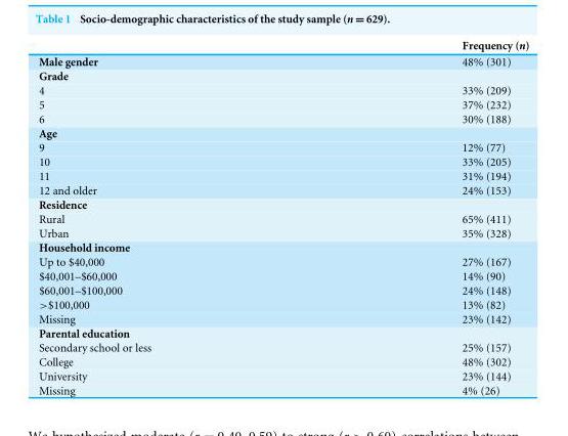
<table><thead><tr><td></td><td>Frequency (n)</td></tr></thead><tbody><tr><td>Male gender</td><td>48% (301)</td></tr><tr><td colspan="2">Grade</td></tr><tr><td>4</td><td>33% (209)</td></tr><tr><td>5</td><td>37% (232)</td></tr><tr><td>6</td><td>30% (188)</td></tr><tr><td colspan="2">Age</td></tr><tr><td>9</td><td>12% (77)</td></tr><tr><td>10</td><td>33% (205)</td></tr><tr><td>11</td><td>31% (194)</td></tr><tr><td>12 and older</td><td>24% (153)</td></tr><tr><td colspan="2">Residence</td></tr><tr><td>Rural</td><td>65% (411)</td></tr><tr><td>Urban</td><td>35% (328)</td></tr><tr><td colspan="2">Household income</td></tr><tr><td>Up to $40,000</td><td>27% (167)</td></tr><tr><td>$40,001–$60,000</td><td>14% (90)</td></tr><tr><td>$60,001–$100,000</td><td>24% (148)</td></tr><tr><td>&gt;$100,000</td><td>13% (82)</td></tr><tr><td>Missing</td><td>23% (142)</td></tr><tr><td colspan="2">Parental education</td></tr><tr><td>Secondary school or less</td><td>25% (157)</td></tr><tr><td>College</td><td>48% (302)</td></tr><tr><td>University</td><td>23% (144)</td></tr><tr><td>Missing</td><td>4% (26)</td></tr></tbody></table>